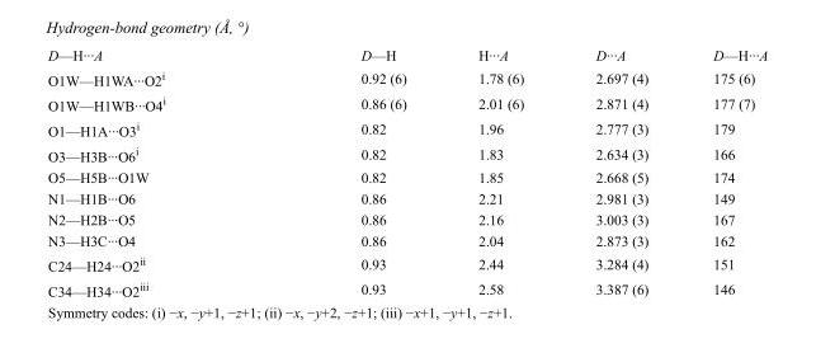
<table><tbody><tr><td>D—H···A</td><td>D—H</td><td>H···A</td><td>D···A</td><td>D—H···A</td></tr><tr><td>O1W—H1WA···O2<sup>i</sup></td><td>0.92 (6)</td><td>1.78 (6)</td><td>2.697 (4)</td><td>175 (6)</td></tr><tr><td>O1W—H1WB···O4<sup>i</sup></td><td>0.86 (6)</td><td>2.01 (6)</td><td>2.871 (4)</td><td>177 (7)</td></tr><tr><td>O1—H1A···O3<sup>i</sup></td><td>0.82</td><td>1.96</td><td>2.777 (3)</td><td>179</td></tr><tr><td>O3—H3B···O6<sup>i</sup></td><td>0.82</td><td>1.83</td><td>2.634 (3)</td><td>166</td></tr><tr><td>O5—H5B···O1W</td><td>0.82</td><td>1.85</td><td>2.668 (5)</td><td>174</td></tr><tr><td>N1—H1B···O6</td><td>0.86</td><td>2.21</td><td>2.981 (3)</td><td>149</td></tr><tr><td>N2—H2B···O5</td><td>0.86</td><td>2.16</td><td>3.003 (3)</td><td>167</td></tr><tr><td>N3—H3C···O4</td><td>0.86</td><td>2.04</td><td>2.873 (3)</td><td>162</td></tr><tr><td>C24—H24···O2<sup>ii</sup></td><td>0.93</td><td>2.44</td><td>3.284 (4)</td><td>151</td></tr><tr><td>C34—H34···O2<sup>iii</sup></td><td>0.93</td><td>2.58</td><td>3.387 (6)</td><td>146</td></tr></tbody></table>